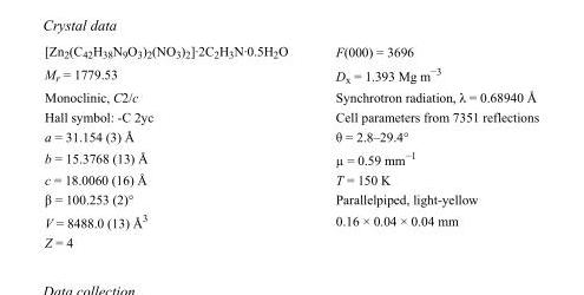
<table><tbody><tr><td>[Zn<sub>2</sub>(C<sub>42</sub>H<sub>38</sub>N<sub>9</sub>O<sub>3</sub>)<sub>2</sub>(NO<sub>3</sub>)<sub>2</sub>]·2C<sub>2</sub>H<sub>3</sub>N·0.5H<sub>2</sub>O</td><td>F(000) = 3696</td></tr><tr><td>M<sub>r</sub> = 1779.53</td><td>D<sub>x</sub> = 1.393 Mg m<sup>−3</sup></td></tr><tr><td>Monoclinic, C2/c</td><td>Synchrotron radiation, λ = 0.68940 Å</td></tr><tr><td>Hall symbol: -C 2yc</td><td>Cell parameters from 7351 reflections</td></tr><tr><td>a = 31.154 (3) Å</td><td>θ = 2.8–29.4°</td></tr><tr><td>b = 15.3768 (13) Å</td><td>µ = 0.59 mm<sup>−1</sup></td></tr><tr><td>c = 18.0060 (16) Å</td><td>T = 150 K</td></tr><tr><td>β = 100.253 (2)°</td><td>Parallelpiped, light-yellow</td></tr><tr><td>V = 8488.0 (13) Å<sup>3</sup></td><td>0.16 × 0.04 × 0.04 mm</td></tr><tr><td>Z = 4</td><td></td></tr></tbody></table>